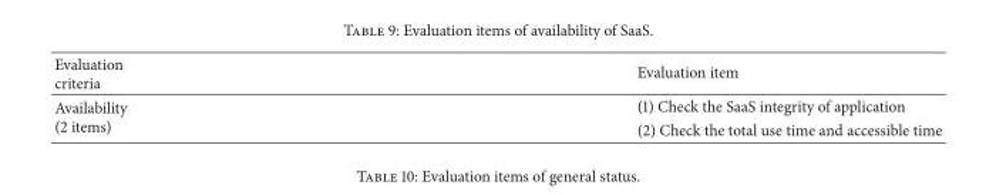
<table><thead><tr><td>Evaluation criteria</td><td>Evaluation item</td></tr></thead><tbody><tr><td rowspan="2">Availability (2 items)</td><td>(1) Check the SaaS integrity of application</td></tr><tr><td>(2) Check the total use time and accessible time</td></tr></tbody></table>